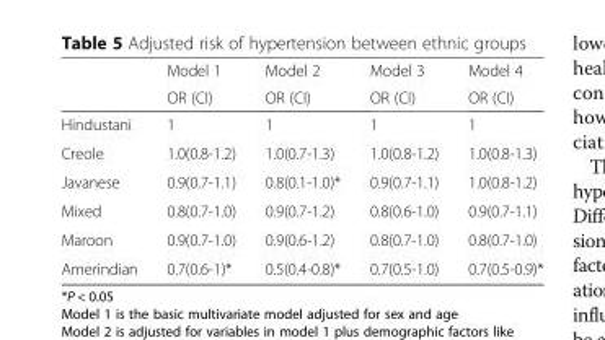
<table><thead><tr><td rowspan="2"></td><td rowspan="2">Model 1 OR (CI)</td><td rowspan="2">Model 2 OR (CI)</td><td rowspan="2">Model 3 OR (CI)</td><td rowspan="2">Model 4 OR (CI)</td></tr><tr></tr></thead><tbody><tr><td>Hindustani</td><td>1</td><td>1</td><td>1</td><td>1</td></tr><tr><td>Creole</td><td>1.0(0.8-1.2)</td><td>1.0(0.7-1.3)</td><td>1.0(0.8-1.2)</td><td>1.0(0.8-1.3)</td></tr><tr><td>Javanese</td><td>0.9(0.7-1.1)</td><td>0.8(0.1-1.0)*</td><td>0.9(0.7-1.1)</td><td>1.0(0.8-1.2)</td></tr><tr><td>Mixed</td><td>0.8(0.7-1.0)</td><td>0.9(0.7-1.2)</td><td>0.8(0.6-1.0)</td><td>0.9(0.7-1.1)</td></tr><tr><td>Maroon</td><td>0.9(0.7-1.0)</td><td>0.9(0.6-1.2)</td><td>0.8(0.7-1.0)</td><td>0.8(0.7-1.0)</td></tr><tr><td>Amerindian</td><td>0.7(0.6-1)*</td><td>0.5(0.4-0.8)*</td><td>0.7(0.5-1.0)</td><td>0.7(0.5-0.9)*</td></tr></tbody></table>